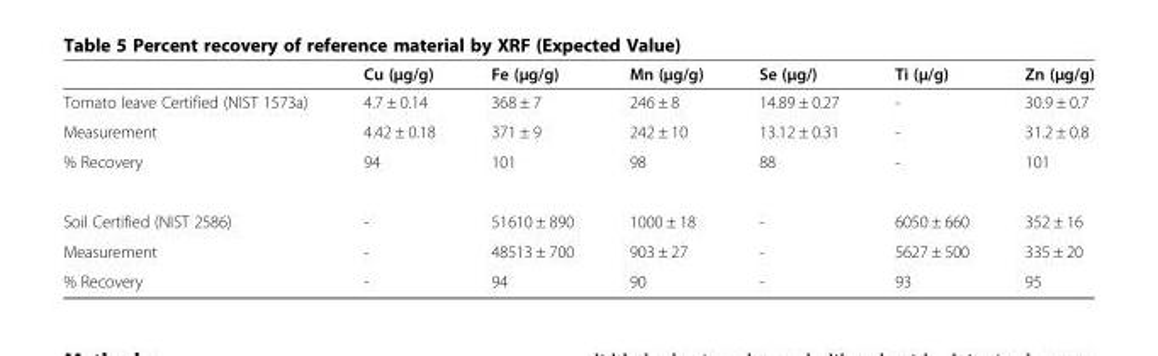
<table><thead><tr><td></td><td>Cu (μg/g)</td><td>Fe (μg/g)</td><td>Mn (μg/g)</td><td>Se (μg/)</td><td>Ti (μ/g)</td><td>Zn (μg/g)</td></tr></thead><tbody><tr><td>Tomato leave Certified (NIST 1573a)</td><td>4.7 ± 0.14</td><td>368 ± 7</td><td>246 ± 8</td><td>14.89 ± 0.27</td><td>-</td><td>30.9 ± 0.7</td></tr><tr><td>Measurement</td><td>4.42 ± 0.18</td><td>371 ± 9</td><td>242 ± 10</td><td>13.12 ± 0.31</td><td>-</td><td>31.2 ± 0.8</td></tr><tr><td>% Recovery</td><td>94</td><td>101</td><td>98</td><td>88</td><td>-</td><td>101</td></tr><tr><td>Soil Certified (NIST 2586)</td><td>-</td><td>51610 ± 890</td><td>1000 ± 18</td><td>-</td><td>6050 ± 660</td><td>352 ± 16</td></tr><tr><td>Measurement</td><td>-</td><td>48513 ± 700</td><td>903 ± 27</td><td>-</td><td>5627 ± 500</td><td>335 ± 20</td></tr><tr><td>% Recovery</td><td>-</td><td>94</td><td>90</td><td>-</td><td>93</td><td>95</td></tr></tbody></table>